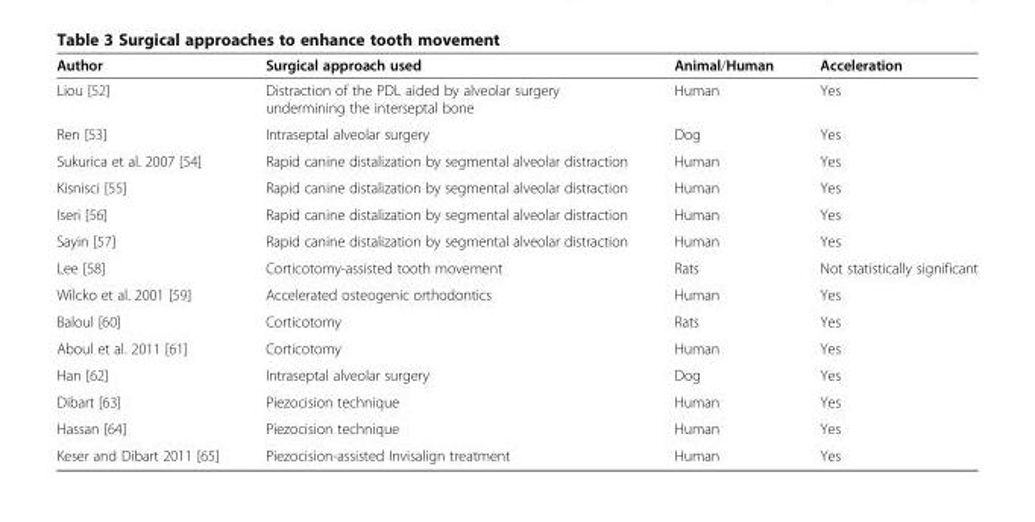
<table><thead><tr><td>Author</td><td>Surgical approach used</td><td>Animal/Human</td><td>Acceleration</td></tr></thead><tbody><tr><td>Liou [52]</td><td>Distraction of the PDL aided by alveolar surgery undermining the interseptal bone</td><td>Human</td><td>Yes</td></tr><tr><td>Ren [53]</td><td>Intraseptal alveolar surgery</td><td>Dog</td><td>Yes</td></tr><tr><td>Sukurica et al. 2007 [54]</td><td>Rapid canine distalization by segmental alveolar distraction</td><td>Human</td><td>Yes</td></tr><tr><td>Kisnisci [55]</td><td>Rapid canine distalization by segmental alveolar distraction</td><td>Human</td><td>Yes</td></tr><tr><td>Iseri [56]</td><td>Rapid canine distalization by segmental alveolar distraction</td><td>Human</td><td>Yes</td></tr><tr><td>Sayin [57]</td><td>Rapid canine distalization by segmental alveolar distraction</td><td>Human</td><td>Yes</td></tr><tr><td>Lee [58]</td><td>Corticotomy-assisted tooth movement</td><td>Rats</td><td>Not statistically significant</td></tr><tr><td>Wilcko et al. 2001 [59]</td><td>Accelerated osteogenic orthodontics</td><td>Human</td><td>Yes</td></tr><tr><td>Baloul [60]</td><td>Corticotomy</td><td>Rats</td><td>Yes</td></tr><tr><td>Aboul et al. 2011 [61]</td><td>Corticotomy</td><td>Human</td><td>Yes</td></tr><tr><td>Han [62]</td><td>Intraseptal alveolar surgery</td><td>Dog</td><td>Yes</td></tr><tr><td>Dibart [63]</td><td>Piezocision technique</td><td>Human</td><td>Yes</td></tr><tr><td>Hassan [64]</td><td>Piezocision technique</td><td>Human</td><td>Yes</td></tr><tr><td>Keser and Dibart 2011 [65]</td><td>Piezocision-assisted Invisalign treatment</td><td>Human</td><td>Yes</td></tr></tbody></table>